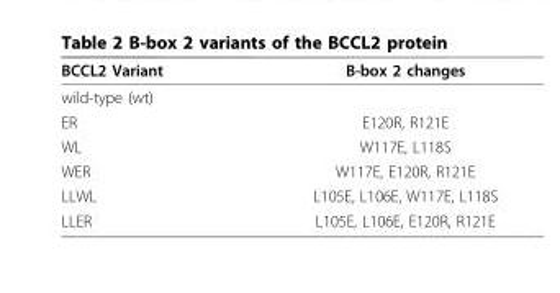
<table><thead><tr><td>BCCL2 Variant</td><td>B-box 2 changes</td></tr></thead><tbody><tr><td colspan="2">wild-type (wt)</td></tr><tr><td>ER</td><td>E120R, R121E</td></tr><tr><td>WL</td><td>W117E, L118S</td></tr><tr><td>WER</td><td>W117E, E120R, R121E</td></tr><tr><td>LLWL</td><td>L105E, L106E, W117E, L118S</td></tr><tr><td>LLER</td><td>L105E, L106E, E120R, R121E</td></tr></tbody></table>